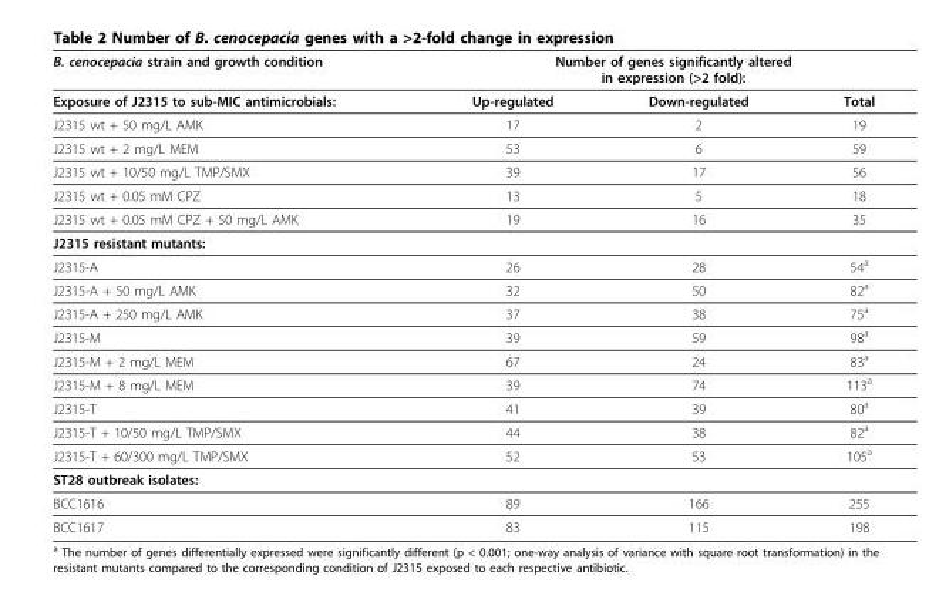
<table><thead><tr><td rowspan="2">B. cenocepacia strain and growth condition Exposure of J2315 to sub-MIC antimicrobials:</td><td colspan="3">Number of genes significantly altered in expression (&gt;2 fold):</td></tr><tr><td>Up-regulated</td><td>Down-regulated</td><td>Total</td></tr></thead><tbody><tr><td>J2315 wt + 50 mg/L AMK</td><td>17</td><td>2</td><td>19</td></tr><tr><td>J2315 wt + 2 mg/L MEM</td><td>53</td><td>6</td><td>59</td></tr><tr><td>J2315 wt + 10/50 mg/L TMP/SMX</td><td>39</td><td>17</td><td>56</td></tr><tr><td>J2315 wt + 0.05 mM CPZ</td><td>13</td><td>5</td><td>18</td></tr><tr><td>J2315 wt + 0.05 mM CPZ + 50 mg/L AMK</td><td>19</td><td>16</td><td>35</td></tr><tr><td colspan="4">J2315 resistant mutants:</td></tr><tr><td>J2315-A</td><td>26</td><td>28</td><td>54a</td></tr><tr><td>J2315-A + 50 mg/L AMK</td><td>32</td><td>50</td><td>82a</td></tr><tr><td>J2315-A + 250 mg/L AMK</td><td>37</td><td>38</td><td>75a</td></tr><tr><td>J2315-M</td><td>39</td><td>59</td><td>98a</td></tr><tr><td>J2315-M + 2 mg/L MEM</td><td>67</td><td>24</td><td>83a</td></tr><tr><td>J2315-M + 8 mg/L MEM</td><td>39</td><td>74</td><td>113a</td></tr><tr><td>J2315-T</td><td>41</td><td>39</td><td>80a</td></tr><tr><td>J2315-T + 10/50 mg/L TMP/SMX</td><td>44</td><td>38</td><td>82a</td></tr><tr><td>J2315-T + 60/300 mg/L TMP/SMX</td><td>52</td><td>53</td><td>105a</td></tr><tr><td colspan="4">ST28 outbreak isolates:</td></tr><tr><td>BCC1616</td><td>89</td><td>166</td><td>255</td></tr><tr><td>BCC1617</td><td>83</td><td>115</td><td>198</td></tr></tbody></table>